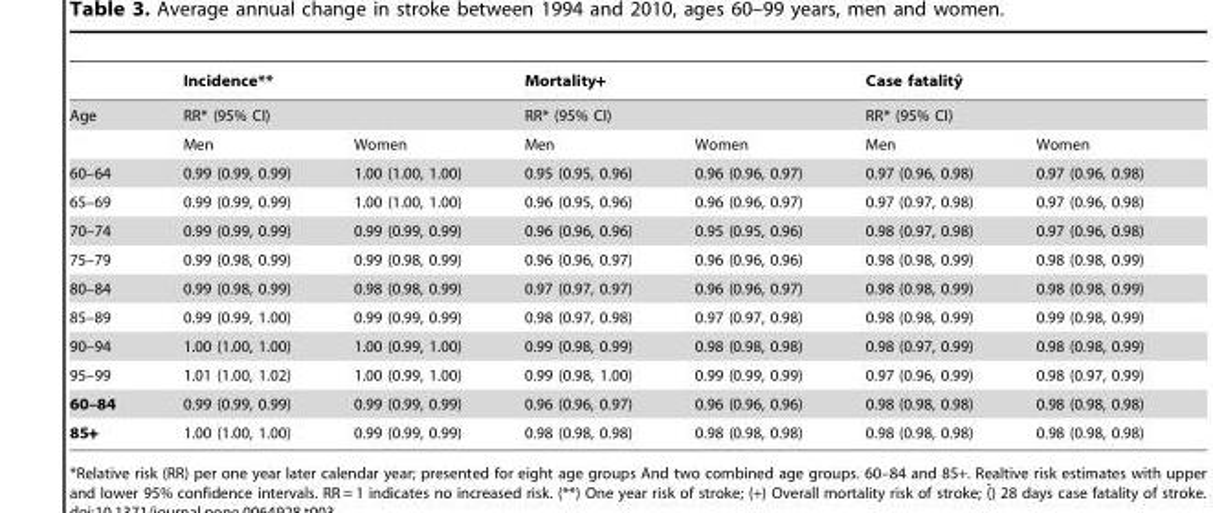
<table><thead><tr><td rowspan="3">Age</td><td rowspan="2" colspan="2">Incidence** RR* (95% CI)</td><td rowspan="2" colspan="2">Mortality+ RR* (95% CI)</td><td rowspan="2" colspan="2">Case fatalityˆ RR* (95% CI)</td></tr><tr></tr><tr><td>Men</td><td>Women</td><td>Men</td><td>Women</td><td>Men</td><td>Women</td></tr></thead><tbody><tr><td>60–64</td><td>0.99 (0.99, 0.99)</td><td>1.00 (1.00, 1.00)</td><td>0.95 (0.95, 0.96)</td><td>0.96 (0.96, 0.97)</td><td>0.97 (0.96, 0.98)</td><td>0.97 (0.96, 0.98)</td></tr><tr><td>65–69</td><td>0.99 (0.99, 0.99)</td><td>1.00 (1.00, 1.00)</td><td>0.96 (0.95, 0.96)</td><td>0.96 (0.96, 0.97)</td><td>0.97 (0.97, 0.98)</td><td>0.97 (0.96, 0.98)</td></tr><tr><td>70–74</td><td>0.99 (0.99, 0.99)</td><td>0.99 (0.99, 0.99)</td><td>0.96 (0.96, 0.96)</td><td>0.95 (0.95, 0.96)</td><td>0.98 (0.97, 0.98)</td><td>0.97 (0.96, 0.98)</td></tr><tr><td>75–79</td><td>0.99 (0.98, 0.99)</td><td>0.99 (0.98, 0.99)</td><td>0.96 (0.96, 0.97)</td><td>0.96 (0.96, 0.96)</td><td>0.98 (0.98, 0.99)</td><td>0.98 (0.98, 0.99)</td></tr><tr><td>80–84</td><td>0.99 (0.98, 0.99)</td><td>0.98 (0.98, 0.99)</td><td>0.97 (0.97, 0.97)</td><td>0.96 (0.96, 0.97)</td><td>0.98 (0.98, 0.99)</td><td>0.98 (0.98, 0.99)</td></tr><tr><td>85–89</td><td>0.99 (0.99, 1.00)</td><td>0.99 (0.99, 0.99)</td><td>0.98 (0.97, 0.98)</td><td>0.97 (0.97, 0.98)</td><td>0.98 (0.98, 0.99)</td><td>0.99 (0.98, 0.99)</td></tr><tr><td>90–94</td><td>1.00 (1.00, 1.00)</td><td>1.00 (0.99, 1.00)</td><td>0.99 (0.98, 0.99)</td><td>0.98 (0.98, 0.98)</td><td>0.98 (0.97, 0.99)</td><td>0.98 (0.98, 0.99)</td></tr><tr><td>95–99</td><td>1.01 (1.00, 1.02)</td><td>1.00 (0.99, 1.00)</td><td>0.99 (0.98, 1.00)</td><td>0.99 (0.99, 0.99)</td><td>0.97 (0.96, 0.99)</td><td>0.98 (0.97, 0.99)</td></tr><tr><td>60–84</td><td>0.99 (0.99, 0.99)</td><td>0.99 (0.99, 0.99)</td><td>0.96 (0.96, 0.97)</td><td>0.96 (0.96, 0.96)</td><td>0.98 (0.98, 0.98)</td><td>0.98 (0.98, 0.98)</td></tr><tr><td>85+</td><td>1.00 (1.00, 1.00)</td><td>0.99 (0.99, 0.99)</td><td>0.98 (0.98, 0.98)</td><td>0.98 (0.98, 0.98)</td><td>0.98 (0.98, 0.98)</td><td>0.98 (0.98, 0.98)</td></tr></tbody></table>